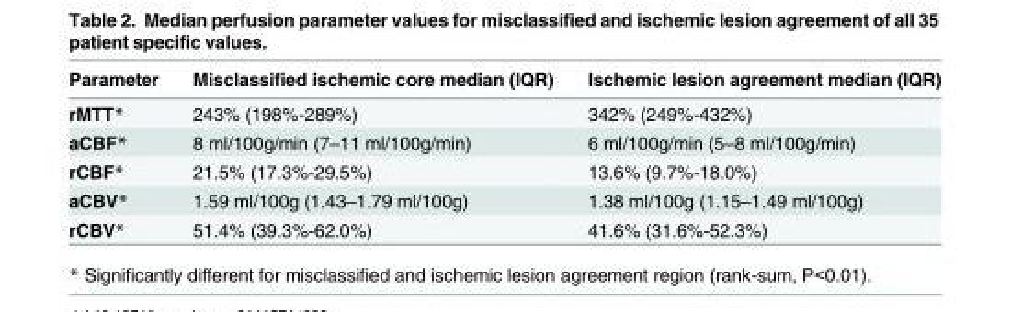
<table><thead><tr><td>Parameter</td><td>Misclassified ischemic core median (IQR)</td><td>Ischemic lesion agreement median (IQR)</td></tr></thead><tbody><tr><td>rMTT*</td><td>243% (198%-289%)</td><td>342% (249%-432%)</td></tr><tr><td>aCBF*</td><td>8 ml/100g/min (7–11 ml/100g/min)</td><td>6 ml/100g/min (5–8 ml/100g/min)</td></tr><tr><td>rCBF*</td><td>21.5% (17.3%-29.5%)</td><td>13.6% (9.7%-18.0%)</td></tr><tr><td>aCBV*</td><td>1.59 ml/100g (1.43–1.79 ml/100g)</td><td>1.38 ml/100g (1.15–1.49 ml/100g)</td></tr><tr><td>rCBV*</td><td>51.4% (39.3%-62.0%)</td><td>41.6% (31.6%-52.3%)</td></tr></tbody></table>